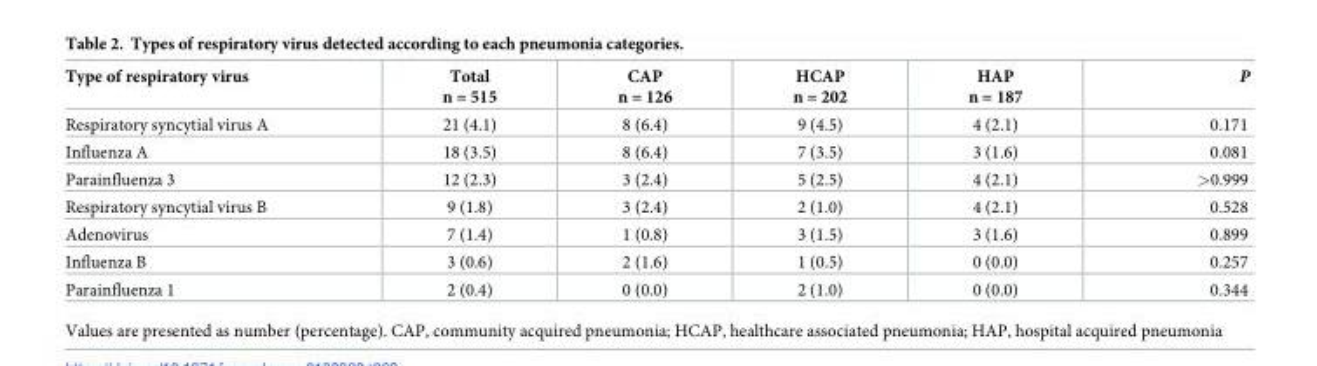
<table><thead><tr><td>Type of respiratory virus</td><td>Total n = 515</td><td>CAP n = 126</td><td>HCAP n = 202</td><td>HAP n = 187</td><td>P</td></tr></thead><tbody><tr><td>Respiratory syncytial virus A</td><td>21 (4.1)</td><td>8 (6.4)</td><td>9 (4.5)</td><td>4 (2.1)</td><td>0.171</td></tr><tr><td>Influenza A</td><td>18 (3.5)</td><td>8 (6.4)</td><td>7 (3.5)</td><td>3 (1.6)</td><td>0.081</td></tr><tr><td>Parainfluenza 3</td><td>12 (2.3)</td><td>3 (2.4)</td><td>5 (2.5)</td><td>4 (2.1)</td><td>&gt;0.999</td></tr><tr><td>Respiratory syncytial virus B</td><td>9 (1.8)</td><td>3 (2.4)</td><td>2 (1.0)</td><td>4 (2.1)</td><td>0.528</td></tr><tr><td>Adenovirus</td><td>7 (1.4)</td><td>1 (0.8)</td><td>3 (1.5)</td><td>3 (1.6)</td><td>0.899</td></tr><tr><td>Influenza B</td><td>3 (0.6)</td><td>2 (1.6)</td><td>1 (0.5)</td><td>0 (0.0)</td><td>0.257</td></tr><tr><td>Parainfluenza 1</td><td>2 (0.4)</td><td>0 (0.0)</td><td>2 (1.0)</td><td>0 (0.0)</td><td>0.344</td></tr></tbody></table>